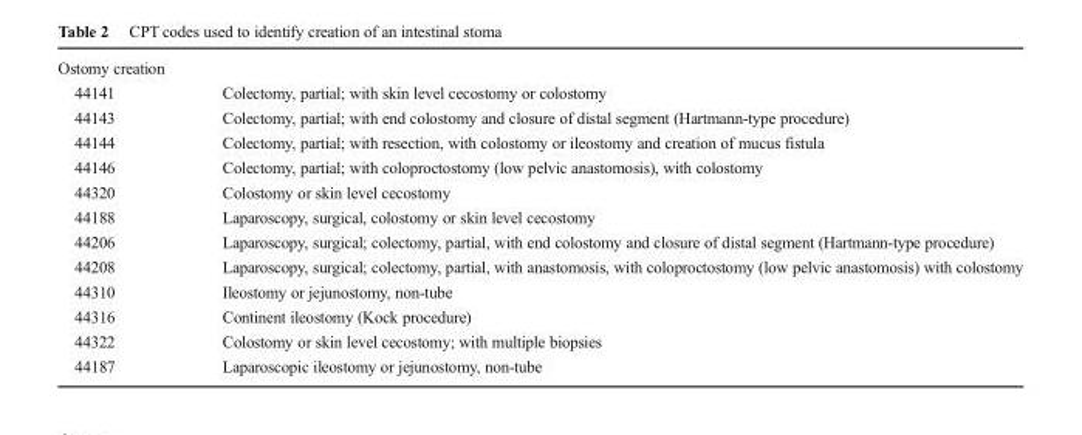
<table><tbody><tr><td colspan="2">Ostomy creation</td></tr><tr><td>44141</td><td>Colectomy, partial; with skin level cecostomy or colostomy</td></tr><tr><td>44143</td><td>Colectomy, partial; with end colostomy and closure of distal segment (Hartmann-type procedure)</td></tr><tr><td>44144</td><td>Colectomy, partial; with resection, with colostomy or ileostomy and creation of mucus fistula</td></tr><tr><td>44146</td><td>Colectomy, partial; with coloproctostomy (low pelvic anastomosis), with colostomy</td></tr><tr><td>44320</td><td>Colostomy or skin level cecostomy</td></tr><tr><td>44188</td><td>Laparoscopy, surgical, colostomy or skin level cecostomy</td></tr><tr><td>44206</td><td>Laparoscopy, surgical; colectomy, partial, with end colostomy and closure of distal segment (Hartmann-type procedure)</td></tr><tr><td>44208</td><td>Laparoscopy, surgical; colectomy, partial, with anastomosis, with coloproctostomy (low pelvic anastomosis) with colostomy</td></tr><tr><td>44310</td><td>Ileostomy or jejunostomy, non-tube</td></tr><tr><td>44316</td><td>Continent ileostomy (Kock procedure)</td></tr><tr><td>44322</td><td>Colostomy or skin level cecostomy; with multiple biopsies</td></tr><tr><td>44187</td><td>Laparoscopic ileostomy or jejunostomy, non-tube</td></tr></tbody></table>